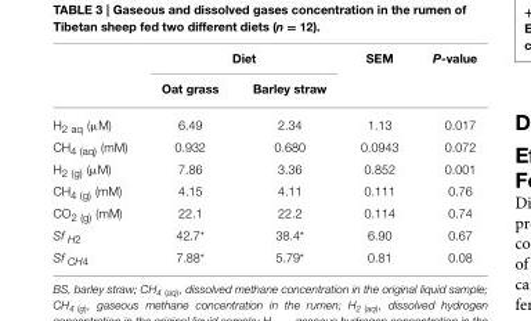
<table><thead><tr><td rowspan="2"></td><td colspan="2">Diet</td><td rowspan="2">SEM</td><td rowspan="2">P-value</td></tr><tr><td>Oat grass</td><td>Barley straw</td></tr></thead><tbody><tr><td>H<sub>2 aq</sub> (µM)</td><td>6.49</td><td>2.34</td><td>1.13</td><td>0.017</td></tr><tr><td>CH<sub>4 (aq)</sub> (mM)</td><td>0.932</td><td>0.680</td><td>0.0943</td><td>0.072</td></tr><tr><td>H<sub>2 (g)</sub> (µM)</td><td>7.86</td><td>3.36</td><td>0.852</td><td>0.001</td></tr><tr><td>CH<sub>4 (g)</sub> (mM)</td><td>4.15</td><td>4.11</td><td>0.111</td><td>0.76</td></tr><tr><td>CO<sub>2 (g)</sub> (mM)</td><td>22.1</td><td>22.2</td><td>0.114</td><td>0.74</td></tr><tr><td>Sf <sub>H2</sub></td><td>42.7*</td><td>38.4*</td><td>6.90</td><td>0.67</td></tr><tr><td>Sf <sub>CH4</sub></td><td>7.88*</td><td>5.79*</td><td>0.81</td><td>0.08</td></tr></tbody></table>